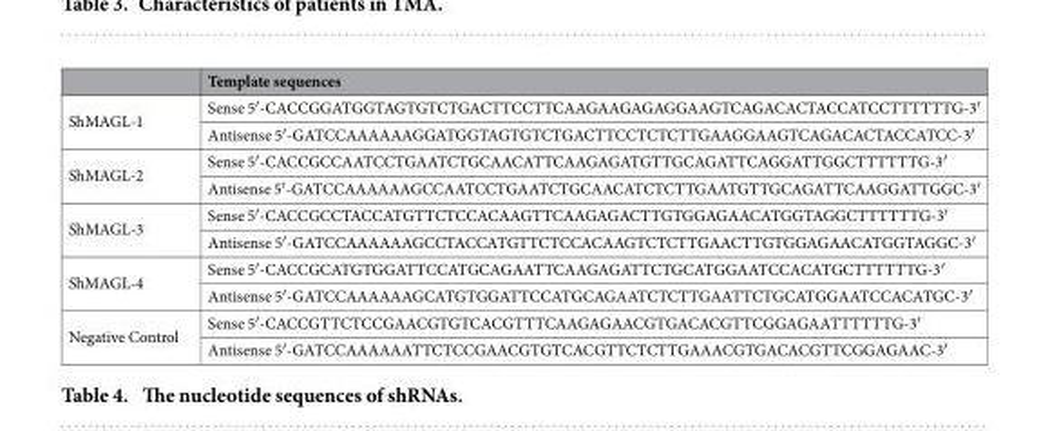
<table><thead><tr><td></td><td>Template sequences</td></tr></thead><tbody><tr><td rowspan="2">ShMAGL-1</td><td>Sense 5′ -CACCGGATGGTAGTGTCTGACTTCCTTCAAGAAGAGAGGAAGTCAGACACTACCATCCTTTTTTG-3′</td></tr><tr><td>Antisense 5′ -GATCCAAAAAAGGATGGTAGTGTCTGACTTCCTCTCTTGAAGGAAGTCAGACACTACCATCC-3′</td></tr><tr><td rowspan="2">ShMAGL-2</td><td>Sense 5′ -CACCGCCAATCCTGAATCTGCAACATTCAAGAGATGTTGCAGATTCAGGATTGGCTTTTTTG-3′</td></tr><tr><td>Antisense 5′ -GATCCAAAAAAGCCAATCCTGAATCTGCAACATCTCTTGAATGTTGCAGATTCAAGGATTGGC-3′</td></tr><tr><td rowspan="2">ShMAGL-3</td><td>Sense 5′ -CACCGCCTACCATGTTCTCCACAAGTTCAAGAGACTTGTGGAGAACATGGTAGGCTTTTTTG-3′</td></tr><tr><td>Antisense 5′ -GATCCAAAAAAGCCTACCATGTTCTCCACAAGTCTCTTGAACTTGTGGAGAACATGGTAGGC-3′</td></tr><tr><td rowspan="2">ShMAGL-4</td><td>Sense 5′ -CACCGCATGTGGATTCCATGCAGAATTCAAGAGATTCTGCATGGAATCCACATGCTTTTTTG-3′</td></tr><tr><td>Antisense 5′ -GATCCAAAAAAGCATGTGGATTCCATGCAGAATCTCTTGAATTCTGCATGGAATCCACATGC-3′</td></tr><tr><td rowspan="2">Negative Control</td><td>Sense 5′ -CACCGTTCTCCGAACGTGTCACGTTTCAAGAGAACGTGACACGTTCGGAGAATTTTTTG-3′</td></tr><tr><td>Antisense 5′ -GATCCAAAAAATTCTCCGAACGTGTCACGTTCTCTTGAAACGTGACACGTTCGGAGAAC-3′</td></tr></tbody></table>